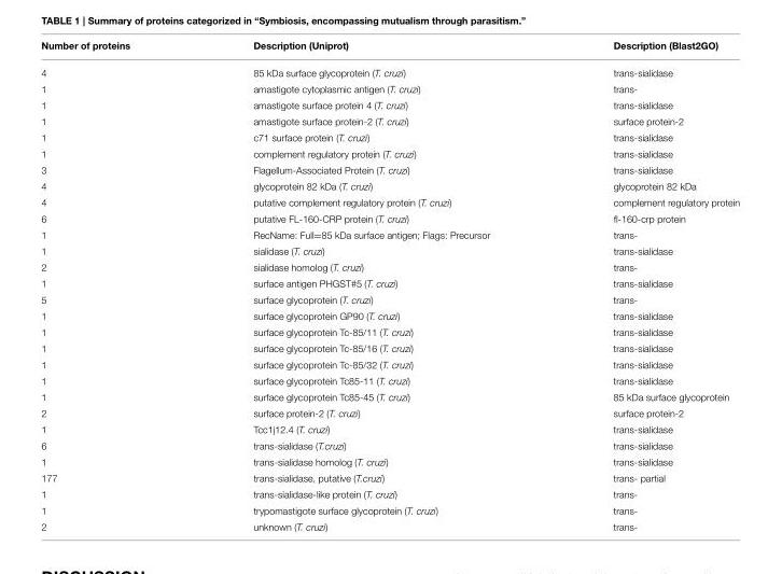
<table><thead><tr><td>Number of proteins</td><td>Description (Uniprot)</td><td>Description (Blast2GO)</td></tr></thead><tbody><tr><td>4</td><td>85 kDa surface glycoprotein (T. cruzi)</td><td>trans-sialidase</td></tr><tr><td>1</td><td>amastigote cytoplasmic antigen (T. cruzi)</td><td>trans-</td></tr><tr><td>1</td><td>amastigote surface protein 4 (T. cruzi)</td><td>trans-sialidase</td></tr><tr><td>1</td><td>amastigote surface protein-2 (T. cruzi)</td><td>surface protein-2</td></tr><tr><td>1</td><td>c71 surface protein (T. cruzi)</td><td>trans-sialidase</td></tr><tr><td>1</td><td>complement regulatory protein (T. cruzi)</td><td>trans-sialidase</td></tr><tr><td>3</td><td>Flagellum-Associated Protein (T. cruzi)</td><td>trans-sialidase</td></tr><tr><td>4</td><td>glycoprotein 82 kDa (T. cruzi)</td><td>glycoprotein 82 kDa</td></tr><tr><td>4</td><td>putative complement regulatory protein (T. cruzi)</td><td>complement regulatory protein</td></tr><tr><td>6</td><td>putative FL-160-CRP protein (T. cruzi)</td><td>fl-160-crp protein</td></tr><tr><td>1</td><td>RecName: Full=85 kDa surface antigen; Flags: Precursor</td><td>trans-</td></tr><tr><td>1</td><td>sialidase (T. cruzi)</td><td>trans-sialidase</td></tr><tr><td>2</td><td>sialidase homolog (T. cruzi)</td><td>trans-</td></tr><tr><td>1</td><td>surface antigen PHGST#5 (T. cruzi)</td><td>trans-sialidase</td></tr><tr><td>5</td><td>surface glycoprotein (T. cruzi)</td><td>trans-</td></tr><tr><td>1</td><td>surface glycoprotein GP90 (T. cruzi)</td><td>trans-sialidase</td></tr><tr><td>1</td><td>surface glycoprotein Tc-85/11 (T. cruzi)</td><td>trans-sialidase</td></tr><tr><td>1</td><td>surface glycoprotein Tc-85/16 (T. cruzi)</td><td>trans-sialidase</td></tr><tr><td>1</td><td>surface glycoprotein Tc-85/32 (T. cruzi)</td><td>trans-sialidase</td></tr><tr><td>1</td><td>surface glycoprotein Tc85-11 (T. cruzi)</td><td>trans-sialidase</td></tr><tr><td>1</td><td>surface glycoprotein Tc85-45 (T. cruzi)</td><td>85 kDa surface glycoprotein</td></tr><tr><td>2</td><td>surface protein-2 (T. cruzi)</td><td>surface protein-2</td></tr><tr><td>1</td><td>Tcc1j12.4 (T. cruzi)</td><td>trans-sialidase</td></tr><tr><td>6</td><td>trans-sialidase (T.cruzi)</td><td>trans-sialidase</td></tr><tr><td>1</td><td>trans-sialidase homolog (T. cruzi)</td><td>trans-sialidase</td></tr><tr><td>177</td><td>trans-sialidase, putative (T.cruzi)</td><td>trans- partial</td></tr><tr><td>1</td><td>trans-sialidase-like protein (T. cruzi)</td><td>trans-</td></tr><tr><td>1</td><td>trypomastigote surface glycoprotein (T. cruzi)</td><td>trans-</td></tr><tr><td>2</td><td>unknown (T. cruzi)</td><td>trans-</td></tr></tbody></table>